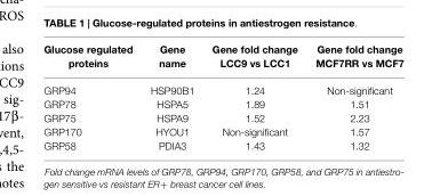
<table><thead><tr><td>Glucose regulated proteins</td><td>Gene name</td><td>Gene fold change LCC9 vs LCC1</td><td>Gene fold change MCF7RR vs MCF7</td></tr></thead><tbody><tr><td>GRP94</td><td>HSP90B1</td><td>1.24</td><td>Non-significant</td></tr><tr><td>GRP78</td><td>HSPA5</td><td>1.89</td><td>1.51</td></tr><tr><td>GRP75</td><td>HSPA9</td><td>1.52</td><td>2.23</td></tr><tr><td>GRP170</td><td>HYOU1</td><td>Non-significant</td><td>1.57</td></tr><tr><td>GRP58</td><td>PDIA3</td><td>1.43</td><td>1.32</td></tr></tbody></table>